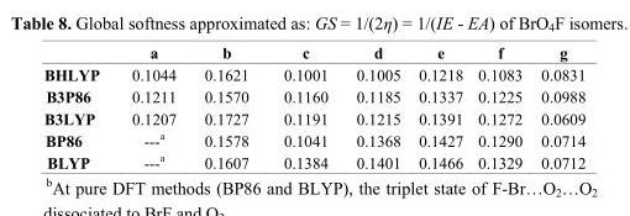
<table><thead><tr><td></td><td>a</td><td>b</td><td>c</td><td>d</td><td>e</td><td>f</td><td>g</td></tr></thead><tbody><tr><td>BHLYP</td><td>0.1044</td><td>0.1621</td><td>0.1001</td><td>0.1005</td><td>0.1218</td><td>0.1083</td><td>0.0831</td></tr><tr><td>B3P86</td><td>0.1211</td><td>0.1570</td><td>0.1160</td><td>0.1185</td><td>0.1337</td><td>0.1225</td><td>0.0988</td></tr><tr><td>B3LYP</td><td>0.1207</td><td>0.1727</td><td>0.1191</td><td>0.1215</td><td>0.1391</td><td>0.1272</td><td>0.0609</td></tr><tr><td>BP86</td><td>---a</td><td>0.1578</td><td>0.1041</td><td>0.1368</td><td>0.1427</td><td>0.1290</td><td>0.0714</td></tr><tr><td>BLYP</td><td>---a</td><td>0.1607</td><td>0.1384</td><td>0.1401</td><td>0.1466</td><td>0.1329</td><td>0.0712</td></tr></tbody></table>